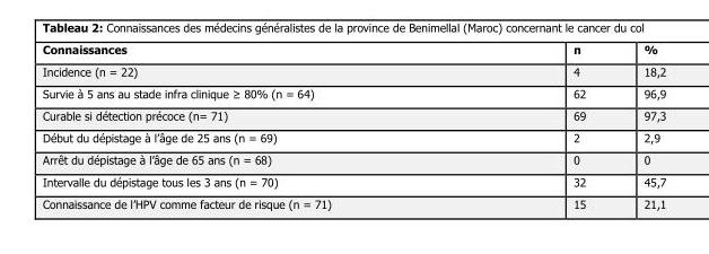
<table><thead><tr><td>Connaissances</td><td>n</td><td>%</td></tr></thead><tbody><tr><td>Incidence (n = 22)</td><td>4</td><td>18,2</td></tr><tr><td>Survie à 5 ans au stade infra clinique ≥ 80% (n = 64)</td><td>62</td><td>96,9</td></tr><tr><td>Curable si détection précoce (n= 71)</td><td>69</td><td>97,3</td></tr><tr><td>Début du dépistage à l’âge de 25 ans (n = 69)</td><td>2</td><td>2,9</td></tr><tr><td>Arrêt du dépistage à l’âge de 65 ans (n = 68)</td><td>0</td><td>0</td></tr><tr><td>Intervalle du dépistage tous les 3 ans (n = 70)</td><td>32</td><td>45,7</td></tr><tr><td>Connaissance de l’HPV comme facteur de risque (n = 71)</td><td>15</td><td>21,1</td></tr></tbody></table>